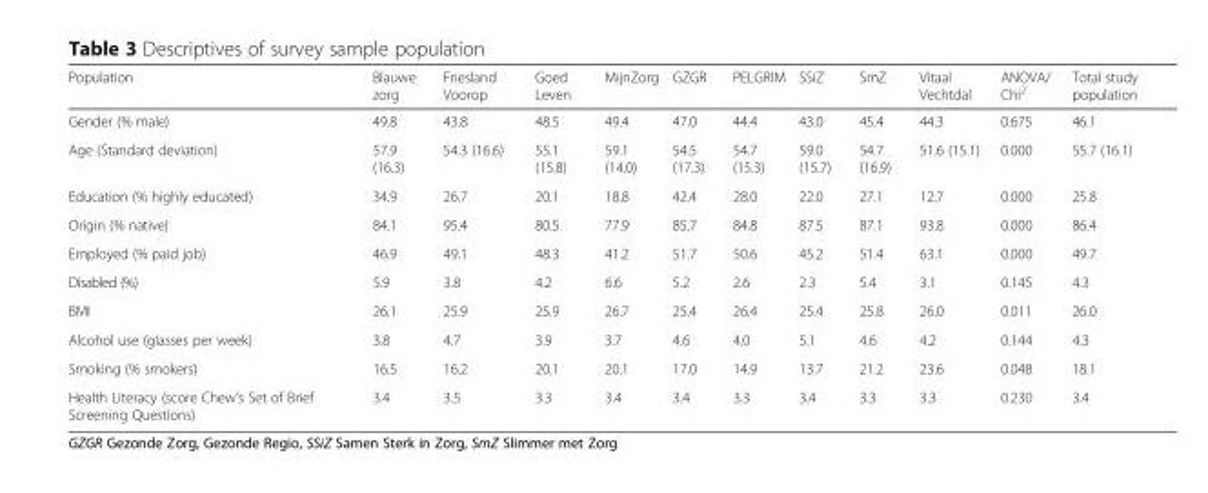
<table><thead><tr><td>Population</td><td>Blauwe zorg</td><td>Friesland Voorop</td><td>Goed Leven</td><td>MijnZorg</td><td>GZGR</td><td>PELGRIM</td><td>SSiZ</td><td>SmZ</td><td>Vitaal Vechtdal</td><td>ANOVA/ Chi<sup>2</sup></td><td>Total study population</td></tr></thead><tbody><tr><td>Gender (% male)</td><td>49.8</td><td>43.8</td><td>48.5</td><td>49.4</td><td>47.0</td><td>44.4</td><td>43.0</td><td>45.4</td><td>44.3</td><td>0.675</td><td>46.1</td></tr><tr><td>Age (Standard deviation)</td><td>57.9 (16.3)</td><td>54.3 (16.6)</td><td>55.1 (15.8)</td><td>59.1 (14.0)</td><td>54.5 (17.3)</td><td>54.7 (15.3)</td><td>59.0 (15.7)</td><td>54.7 (16.9)</td><td>51.6 (15.1)</td><td>0.000</td><td>55.7 (16.1)</td></tr><tr><td>Education (% highly educated)</td><td>34.9</td><td>26.7</td><td>20.1</td><td>18.8</td><td>42.4</td><td>28.0</td><td>22.0</td><td>27.1</td><td>12.7</td><td>0.000</td><td>25.8</td></tr><tr><td>Origin (% native)</td><td>84.1</td><td>95.4</td><td>80.5</td><td>77.9</td><td>85.7</td><td>84.8</td><td>87.5</td><td>87.1</td><td>93.8</td><td>0.000</td><td>86.4</td></tr><tr><td>Employed (% paid job)</td><td>46.9</td><td>49.1</td><td>48.3</td><td>41.2</td><td>51.7</td><td>50.6</td><td>45.2</td><td>51.4</td><td>63.1</td><td>0.000</td><td>49.7</td></tr><tr><td>Disabled (%)</td><td>5.9</td><td>3.8</td><td>4.2</td><td>6.6</td><td>5.2</td><td>2.6</td><td>2.3</td><td>5.4</td><td>3.1</td><td>0.145</td><td>4.3</td></tr><tr><td>BMI</td><td>26.1</td><td>25.9</td><td>25.9</td><td>26.7</td><td>25.4</td><td>26.4</td><td>25.4</td><td>25.8</td><td>26.0</td><td>0.011</td><td>26.0</td></tr><tr><td>Alcohol use (glasses per week)</td><td>3.8</td><td>4.7</td><td>3.9</td><td>3.7</td><td>4.6</td><td>4.0</td><td>5.1</td><td>4.6</td><td>4.2</td><td>0.144</td><td>4.3</td></tr><tr><td>Smoking (% smokers)</td><td>16.5</td><td>16.2</td><td>20.1</td><td>20.1</td><td>17.0</td><td>14.9</td><td>13.7</td><td>21.2</td><td>23.6</td><td>0.048</td><td>18.1</td></tr><tr><td>Health Literacy (score Chew’s Set of Brief Screening Questions)</td><td>3.4</td><td>3.5</td><td>3.3</td><td>3.4</td><td>3.4</td><td>3.3</td><td>3.4</td><td>3.3</td><td>3.3</td><td>0.230</td><td>3.4</td></tr></tbody></table>